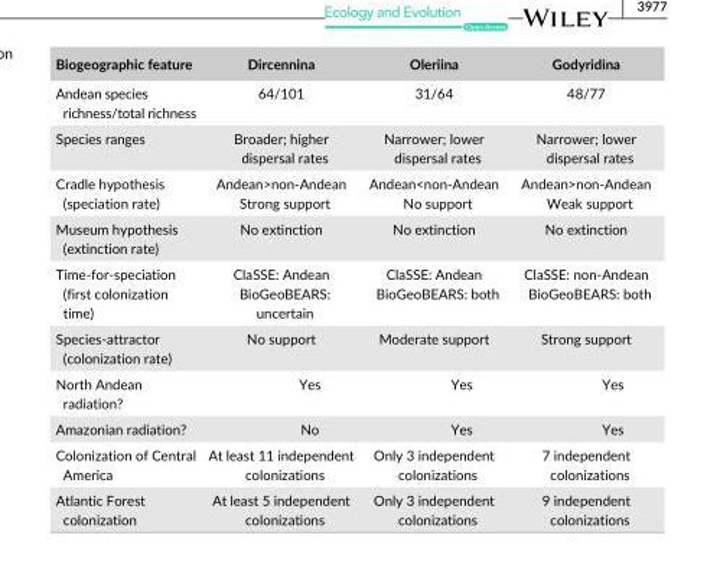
<table><thead><tr><td>Biogeographic feature</td><td>Dircennina</td><td>Oleriina</td><td>Godyridina</td></tr></thead><tbody><tr><td>Andean species richness/total richness</td><td>64/101</td><td>31/64</td><td>48/77</td></tr><tr><td>Species ranges</td><td>Broader; higher dispersal rates</td><td>Narrower; lower dispersal rates</td><td>Narrower; lower dispersal rates</td></tr><tr><td>Cradle hypothesis (speciation rate)</td><td>Andean&gt;non- Andean Strong support</td><td>Andean&lt;non- Andean No support</td><td>Andean&gt;non- Andean Weak support</td></tr><tr><td>Museum hypothesis (extinction rate)</td><td>No extinction</td><td>No extinction</td><td>No extinction</td></tr><tr><td>Time- for- speciation (first colonization time)</td><td>ClaSSE: Andean BioGeoBEARS: uncertain</td><td>ClaSSE: Andean BioGeoBEARS: both</td><td>ClaSSE: non- Andean BioGeoBEARS: both</td></tr><tr><td>Species- attractor (colonization rate)</td><td>No support</td><td>Moderate support</td><td>Strong support</td></tr><tr><td>North Andean radiation?</td><td>Yes</td><td>Yes</td><td>Yes</td></tr><tr><td>Amazonian radiation?</td><td>No</td><td>Yes</td><td>Yes</td></tr><tr><td>Colonization of Central America</td><td>At least 11 independent colonizations</td><td>Only 3 independent colonizations</td><td>7 independent colonizations</td></tr><tr><td>Atlantic Forest colonization</td><td>At least 5 independent colonizations</td><td>Only 3 independent colonizations</td><td>9 independent colonizations</td></tr></tbody></table>